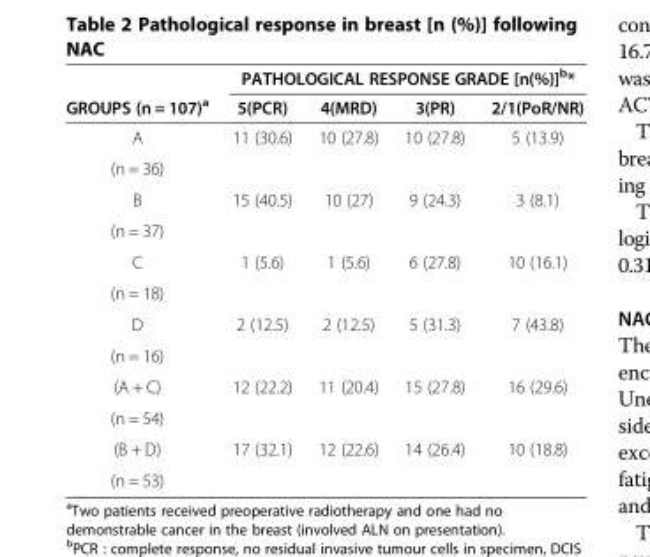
<table><thead><tr><td rowspan="2">GROUPS (n = 107)<sup>a</sup></td><td colspan="4">PATHOLOGICAL RESPONSE GRADE [n(%)]<sup>b</sup>*</td></tr><tr><td>5(PCR)</td><td>4(MRD)</td><td>3(PR)</td><td>2/1(PoR/NR)</td></tr></thead><tbody><tr><td>A</td><td rowspan="2">11 (30.6)</td><td rowspan="2">10 (27.8)</td><td rowspan="2">10 (27.8)</td><td rowspan="2">5 (13.9)</td></tr><tr><td>(n = 36)</td></tr><tr><td>B</td><td rowspan="2">15 (40.5)</td><td rowspan="2">10 (27)</td><td rowspan="2">9 (24.3)</td><td rowspan="2">3 (8.1)</td></tr><tr><td>(n = 37)</td></tr><tr><td>C</td><td rowspan="2">1 (5.6)</td><td rowspan="2">1 (5.6)</td><td rowspan="2">6 (27.8)</td><td rowspan="2">10 (16.1)</td></tr><tr><td>(n = 18)</td></tr><tr><td>D</td><td rowspan="2">2 (12.5)</td><td rowspan="2">2 (12.5)</td><td rowspan="2">5 (31.3)</td><td rowspan="2">7 (43.8)</td></tr><tr><td>(n = 16)</td></tr><tr><td>(A + C)</td><td rowspan="2">12 (22.2)</td><td rowspan="2">11 (20.4)</td><td rowspan="2">15 (27.8)</td><td rowspan="2">16 (29.6)</td></tr><tr><td>(n = 54)</td></tr><tr><td>(B + D)</td><td rowspan="2">17 (32.1)</td><td rowspan="2">12 (22.6)</td><td rowspan="2">14 (26.4)</td><td rowspan="2">10 (18.8)</td></tr><tr><td>(n = 53)</td></tr></tbody></table>